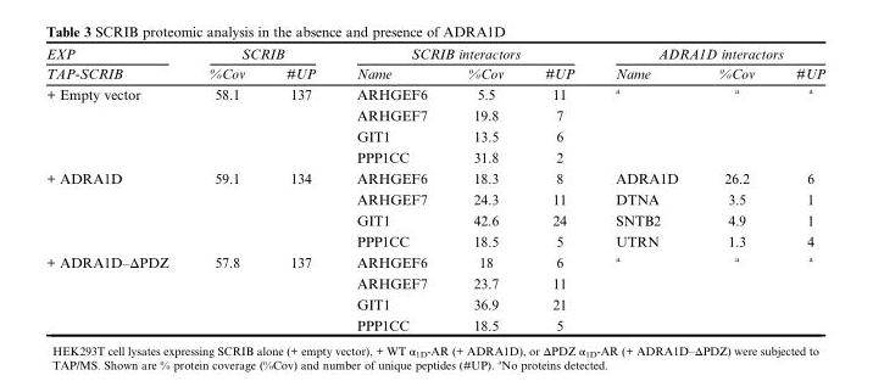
<table><thead><tr><td rowspan="2">EXP TAP-SCRIB</td><td colspan="2">SCRIB</td><td colspan="3">SCRIB interactors</td><td colspan="3">ADRA1D interactors</td></tr><tr><td>%Cov</td><td>#UP</td><td>Name</td><td>%Cov</td><td>#UP</td><td>Name</td><td>%Cov</td><td>#UP</td></tr></thead><tbody><tr><td rowspan="4">+ Empty vector</td><td>58.1</td><td>137</td><td>ARHGEF6</td><td>5.5</td><td>11</td><td>a</td><td>a</td><td>a</td></tr><tr><td></td><td></td><td>ARHGEF7</td><td>19.8</td><td>7</td><td></td><td></td><td></td></tr><tr><td></td><td></td><td>GIT1</td><td>13.5</td><td>6</td><td></td><td></td><td></td></tr><tr><td></td><td></td><td>PPP1CC</td><td>31.8</td><td>2</td><td></td><td></td><td></td></tr><tr><td rowspan="4">+ ADRA1D</td><td>59.1</td><td>134</td><td>ARHGEF6</td><td>18.3</td><td>8</td><td>ADRA1D</td><td>26.2</td><td>6</td></tr><tr><td></td><td></td><td>ARHGEF7</td><td>24.3</td><td>11</td><td>DTNA</td><td>3.5</td><td>1</td></tr><tr><td></td><td></td><td>GIT1</td><td>42.6</td><td>24</td><td>SNTB2</td><td>4.9</td><td>1</td></tr><tr><td></td><td></td><td>PPP1CC</td><td>18.5</td><td>5</td><td>UTRN</td><td>1.3</td><td>4</td></tr><tr><td rowspan="4">+ ADRA1D–ΔPDZ</td><td>57.8</td><td>137</td><td>ARHGEF6</td><td>18</td><td>6</td><td>a</td><td>a</td><td>a</td></tr><tr><td></td><td></td><td>ARHGEF7</td><td>23.7</td><td>11</td><td></td><td></td><td></td></tr><tr><td></td><td></td><td>GIT1</td><td>36.9</td><td>21</td><td></td><td></td><td></td></tr><tr><td></td><td></td><td>PPP1CC</td><td>18.5</td><td>5</td><td></td><td></td><td></td></tr></tbody></table>